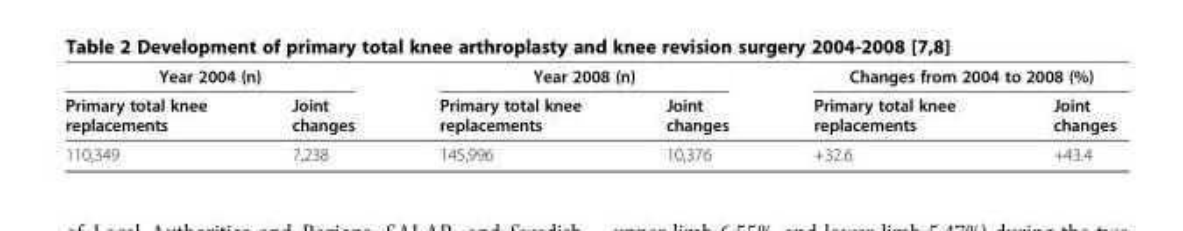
<table><thead><tr><td colspan="2">Year 2004 (n)</td><td colspan="2">Year 2008 (n)</td><td colspan="2">Changes from 2004 to 2008 (%)</td></tr><tr><td>Primary total knee replacements</td><td>Joint changes</td><td>Primary total knee replacements</td><td>Joint changes</td><td>Primary total knee replacements</td><td>Joint changes</td></tr></thead><tbody><tr><td>110,349</td><td>7,238</td><td>145,996</td><td>10,376</td><td>+32.6</td><td>+43.4</td></tr></tbody></table>